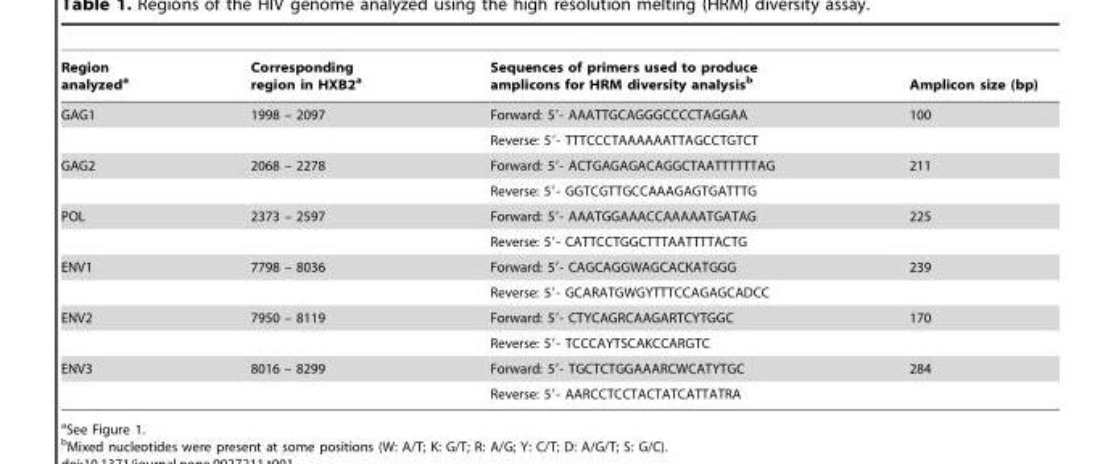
<table><thead><tr><td>Region analyzed<sup>a</sup></td><td>Corresponding region in HXB2<sup>a</sup></td><td>Sequences of primers used to produce amplicons for HRM diversity analysis<sup>b</sup></td><td>Amplicon size (bp)</td></tr></thead><tbody><tr><td rowspan="2">GAG1</td><td>1998 – 2097</td><td>Forward: 5′- AAATTGCAGGGCCCCTAGGAA</td><td>100</td></tr><tr><td></td><td>Reverse: 5′- TTTCCCTAAAAAATTAGCCTGTCT</td><td></td></tr><tr><td rowspan="2">GAG2</td><td>2068 – 2278</td><td>Forward: 5′- ACTGAGAGACAGGCTAATTTTTTAG</td><td>211</td></tr><tr><td></td><td>Reverse: 5′- GGTCGTTGCCAAAGAGTGATTTG</td><td></td></tr><tr><td rowspan="2">POL</td><td>2373 – 2597</td><td>Forward: 5′- AAATGGAAACCAAAAATGATAG</td><td>225</td></tr><tr><td></td><td>Reverse: 5′- CATTCCTGGCTTTAATTTTACTG</td><td></td></tr><tr><td rowspan="2">ENV1</td><td>7798 – 8036</td><td>Forward: 5′- CAGCAGGWAGCACKATGGG</td><td>239</td></tr><tr><td></td><td>Reverse: 5′- GCARATGWGYTTTCCAGAGCADCC</td><td></td></tr><tr><td rowspan="2">ENV2</td><td>7950 – 8119</td><td>Forward: 5′- CTYCAGRCAAGARTCYTGGC</td><td>170</td></tr><tr><td></td><td>Reverse: 5′- TCCCAYTSCAKCCARGTC</td><td></td></tr><tr><td rowspan="2">ENV3</td><td>8016 – 8299</td><td>Forward: 5′- TGCTCTGGAAARCWCATYTGC</td><td>284</td></tr><tr><td></td><td>Reverse: 5′- AARCCTCCTACTATCATTATRA</td><td></td></tr></tbody></table>